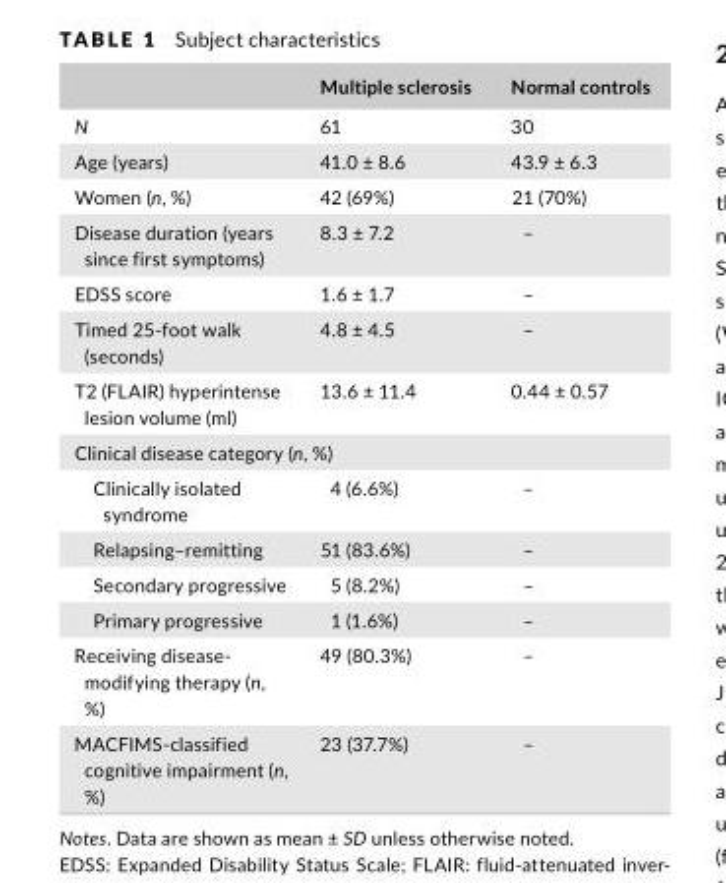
<table><thead><tr><td></td><td>Multiple sclerosis</td><td>Normal controls</td></tr></thead><tbody><tr><td>N</td><td>61</td><td>30</td></tr><tr><td>Age (years)</td><td>41.0 ± 8.6</td><td>43.9 ± 6.3</td></tr><tr><td>Women (n, %)</td><td>42 (69%)</td><td>21 (70%)</td></tr><tr><td>Disease duration (years since first symptoms)</td><td>8.3 ± 7.2</td><td>–</td></tr><tr><td>EDSS score</td><td>1.6 ± 1.7</td><td>–</td></tr><tr><td>Timed 25- foot walk (seconds)</td><td>4.8 ± 4.5</td><td>–</td></tr><tr><td>T2 (FLAIR) hyperintense lesion volume (ml)</td><td>13.6 ± 11.4</td><td>0.44 ± 0.57</td></tr><tr><td colspan="3">Clinical disease category (n, %)</td></tr><tr><td>Clinically isolated syndrome</td><td>4 (6.6%)</td><td>–</td></tr><tr><td>Relapsing–remitting</td><td>51 (83.6%)</td><td>–</td></tr><tr><td>Secondary progressive</td><td>5 (8.2%)</td><td>–</td></tr><tr><td>Primary progressive</td><td>1 (1.6%)</td><td>–</td></tr><tr><td>Receiving disease- modifying therapy (n, %)</td><td>49 (80.3%)</td><td>–</td></tr><tr><td>MACFIMS- classified cognitive impairment (n, %)</td><td>23 (37.7%)</td><td>–</td></tr></tbody></table>